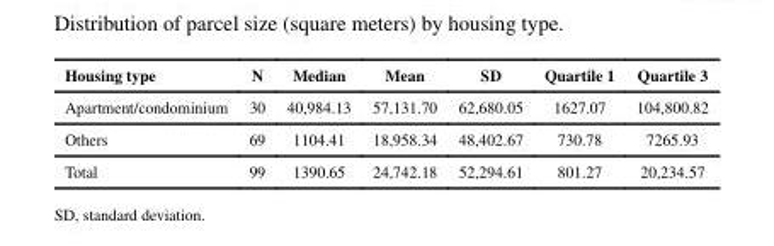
<table><thead><tr><td>Housing type</td><td>N</td><td>Median</td><td>Mean</td><td>SD</td><td>Quartile 1</td><td>Quartile 3</td></tr></thead><tbody><tr><td>Apartment/condominium</td><td>30</td><td>40,984.13</td><td>57,131.70</td><td>62,680.05</td><td>1627.07</td><td>104,800.82</td></tr><tr><td>Others</td><td>69</td><td>1104.41</td><td>18,958.34</td><td>48,402.67</td><td>730.78</td><td>7265.93</td></tr><tr><td>Total</td><td>99</td><td>1390.65</td><td>24,742.18</td><td>52,294.61</td><td>801.27</td><td>20,234.57</td></tr></tbody></table>